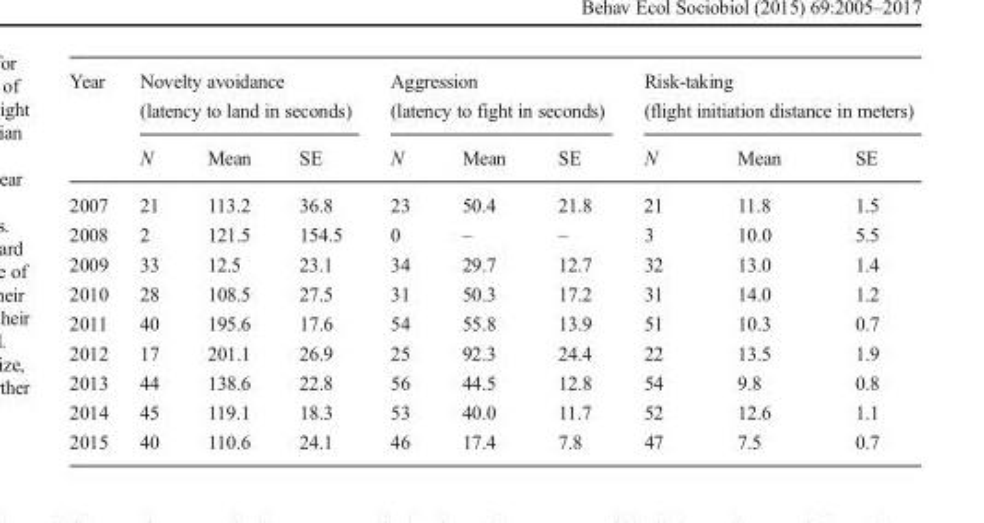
<table><thead><tr><td rowspan="2">Year</td><td colspan="3">Novelty avoidance (latency to land in seconds)</td><td colspan="3">Aggression (latency to fight in seconds)</td><td colspan="3">Risk-taking (flight initiation distance in meters)</td></tr><tr><td>N</td><td>Mean</td><td>SE</td><td>N</td><td>Mean</td><td>SE</td><td>N</td><td>Mean</td><td>SE</td></tr></thead><tbody><tr><td>2007</td><td>21</td><td>113.2</td><td>36.8</td><td>23</td><td>50.4</td><td>21.8</td><td>21</td><td>11.8</td><td>1.5</td></tr><tr><td>2008</td><td>2</td><td>121.5</td><td>154.5</td><td>0</td><td>–</td><td>–</td><td>3</td><td>10.0</td><td>5.5</td></tr><tr><td>2009</td><td>33</td><td>12.5</td><td>23.1</td><td>34</td><td>29.7</td><td>12.7</td><td>32</td><td>13.0</td><td>1.4</td></tr><tr><td>2010</td><td>28</td><td>108.5</td><td>27.5</td><td>31</td><td>50.3</td><td>17.2</td><td>31</td><td>14.0</td><td>1.2</td></tr><tr><td>2011</td><td>40</td><td>195.6</td><td>17.6</td><td>54</td><td>55.8</td><td>13.9</td><td>51</td><td>10.3</td><td>0.7</td></tr><tr><td>2012</td><td>17</td><td>201.1</td><td>26.9</td><td>25</td><td>92.3</td><td>24.4</td><td>22</td><td>13.5</td><td>1.9</td></tr><tr><td>2013</td><td>44</td><td>138.6</td><td>22.8</td><td>56</td><td>44.5</td><td>12.8</td><td>54</td><td>9.8</td><td>0.8</td></tr><tr><td>2014</td><td>45</td><td>119.1</td><td>18.3</td><td>53</td><td>40.0</td><td>11.7</td><td>52</td><td>12.6</td><td>1.1</td></tr><tr><td>2015</td><td>40</td><td>110.6</td><td>24.1</td><td>46</td><td>17.4</td><td>7.8</td><td>47</td><td>7.5</td><td>0.7</td></tr></tbody></table>